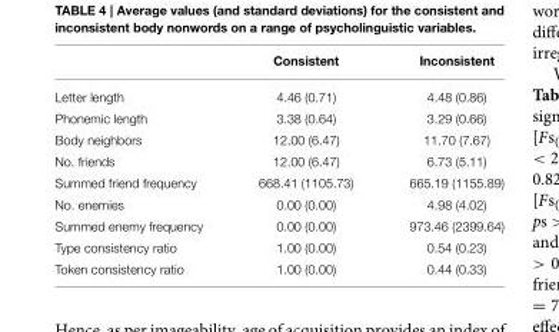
<table><thead><tr><td></td><td>Consistent</td><td>Inconsistent</td></tr></thead><tbody><tr><td>Letter length</td><td>4.46 (0.71)</td><td>4.48 (0.86)</td></tr><tr><td>Phonemic length</td><td>3.38 (0.64)</td><td>3.29 (0.66)</td></tr><tr><td>Body neighbors</td><td>12.00 (6.47)</td><td>11.70 (7.67)</td></tr><tr><td>No. friends</td><td>12.00 (6.47)</td><td>6.73 (5.11)</td></tr><tr><td>Summed friend frequency</td><td>668.41 (1105.73)</td><td>665.19 (1155.89)</td></tr><tr><td>No. enemies</td><td>0.00 (0.00)</td><td>4.98 (4.02)</td></tr><tr><td>Summed enemy frequency</td><td>0.00 (0.00)</td><td>973.46 (2399.64)</td></tr><tr><td>Type consistency ratio</td><td>1.00 (0.00)</td><td>0.54 (0.23)</td></tr><tr><td>Token consistency ratio</td><td>1.00 (0.00)</td><td>0.44 (0.33)</td></tr></tbody></table>